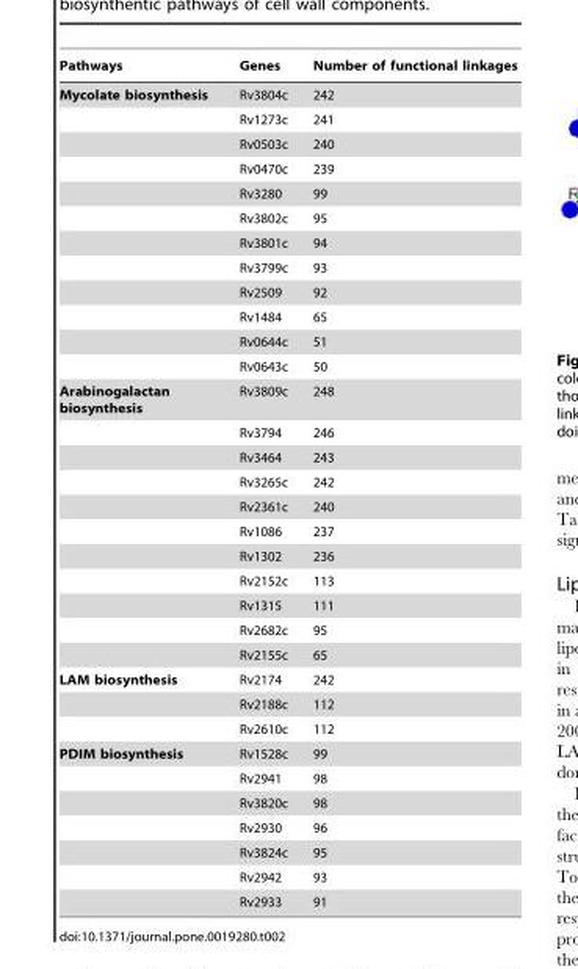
<table><thead><tr><td>Pathways</td><td>Genes</td><td>Number of functional linkages</td></tr></thead><tbody><tr><td rowspan="12">Mycolate biosynthesis</td><td>Rv3804c</td><td>242</td></tr><tr><td>Rv1273c</td><td>241</td></tr><tr><td>Rv0503c</td><td>240</td></tr><tr><td>Rv0470c</td><td>239</td></tr><tr><td>Rv3280</td><td>99</td></tr><tr><td>Rv3802c</td><td>95</td></tr><tr><td>Rv3801c</td><td>94</td></tr><tr><td>Rv3799c</td><td>93</td></tr><tr><td>Rv2509</td><td>92</td></tr><tr><td>Rv1484</td><td>65</td></tr><tr><td>Rv0644c</td><td>51</td></tr><tr><td>Rv0643c</td><td>50</td></tr><tr><td rowspan="11">Arabinogalactan biosynthesis</td><td>Rv3809c</td><td>248</td></tr><tr><td>Rv3794</td><td>246</td></tr><tr><td>Rv3464</td><td>243</td></tr><tr><td>Rv3265c</td><td>242</td></tr><tr><td>Rv2361c</td><td>240</td></tr><tr><td>Rv1086</td><td>237</td></tr><tr><td>Rv1302</td><td>236</td></tr><tr><td>Rv2152c</td><td>113</td></tr><tr><td>Rv1315</td><td>111</td></tr><tr><td>Rv2682c</td><td>95</td></tr><tr><td>Rv2155c</td><td>65</td></tr><tr><td rowspan="3">LAM biosynthesis</td><td>Rv2174</td><td>242</td></tr><tr><td>Rv2188c</td><td>112</td></tr><tr><td>Rv2610c</td><td>112</td></tr><tr><td rowspan="7">PDIM biosynthesis</td><td>Rv1528c</td><td>99</td></tr><tr><td>Rv2941</td><td>98</td></tr><tr><td>Rv3820c</td><td>98</td></tr><tr><td>Rv2930</td><td>96</td></tr><tr><td>Rv3824c</td><td>95</td></tr><tr><td>Rv2942</td><td>93</td></tr><tr><td>Rv2933</td><td>91</td></tr></tbody></table>